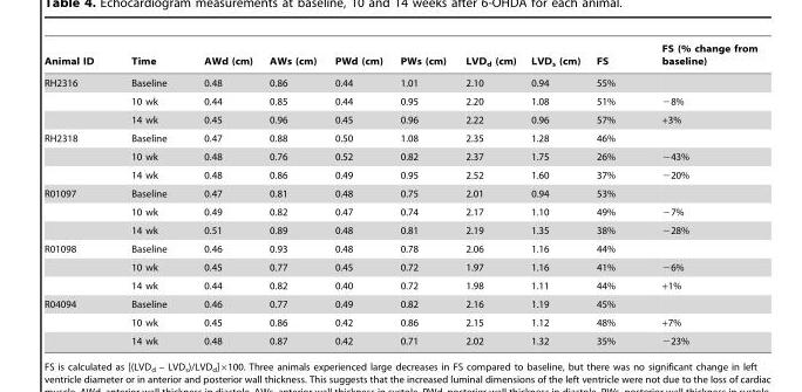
<table><thead><tr><td>Animal ID</td><td>Time</td><td>AWd (cm)</td><td>AWs (cm)</td><td>PWd (cm)</td><td>PWs (cm)</td><td>LVD<sub>d</sub> (cm)</td><td>LVD<sub>s</sub> (cm)</td><td>FS</td><td>FS (% change from baseline)</td></tr></thead><tbody><tr><td rowspan="3">RH2316</td><td>Baseline</td><td>0.48</td><td>0.86</td><td>0.44</td><td>1.01</td><td>2.10</td><td>0.94</td><td>55%</td><td></td></tr><tr><td>10 wk</td><td>0.44</td><td>0.85</td><td>0.44</td><td>0.95</td><td>2.20</td><td>1.08</td><td>51%</td><td>−8%</td></tr><tr><td>14 wk</td><td>0.45</td><td>0.96</td><td>0.45</td><td>0.96</td><td>2.22</td><td>0.96</td><td>57%</td><td>+3%</td></tr><tr><td rowspan="3">RH2318</td><td>Baseline</td><td>0.47</td><td>0.88</td><td>0.50</td><td>1.08</td><td>2.35</td><td>1.28</td><td>46%</td><td></td></tr><tr><td>10 wk</td><td>0.48</td><td>0.76</td><td>0.52</td><td>0.82</td><td>2.37</td><td>1.75</td><td>26%</td><td>−43%</td></tr><tr><td>14 wk</td><td>0.48</td><td>0.86</td><td>0.49</td><td>0.95</td><td>2.52</td><td>1.60</td><td>37%</td><td>−20%</td></tr><tr><td rowspan="3">R01097</td><td>Baseline</td><td>0.47</td><td>0.81</td><td>0.48</td><td>0.75</td><td>2.01</td><td>0.94</td><td>53%</td><td></td></tr><tr><td>10 wk</td><td>0.49</td><td>0.82</td><td>0.47</td><td>0.74</td><td>2.17</td><td>1.10</td><td>49%</td><td>−7%</td></tr><tr><td>14 wk</td><td>0.51</td><td>0.89</td><td>0.48</td><td>0.81</td><td>2.19</td><td>1.35</td><td>38%</td><td>−28%</td></tr><tr><td rowspan="3">R01098</td><td>Baseline</td><td>0.46</td><td>0.93</td><td>0.48</td><td>0.78</td><td>2.06</td><td>1.16</td><td>44%</td><td></td></tr><tr><td>10 wk</td><td>0.45</td><td>0.77</td><td>0.45</td><td>0.72</td><td>1.97</td><td>1.16</td><td>41%</td><td>−6%</td></tr><tr><td>14 wk</td><td>0.44</td><td>0.82</td><td>0.40</td><td>0.72</td><td>1.98</td><td>1.11</td><td>44%</td><td>+1%</td></tr><tr><td rowspan="3">R04094</td><td>Baseline</td><td>0.46</td><td>0.77</td><td>0.49</td><td>0.82</td><td>2.16</td><td>1.19</td><td>45%</td><td></td></tr><tr><td>10 wk</td><td>0.45</td><td>0.86</td><td>0.42</td><td>0.86</td><td>2.15</td><td>1.12</td><td>48%</td><td>+7%</td></tr><tr><td>14 wk</td><td>0.48</td><td>0.87</td><td>0.42</td><td>0.71</td><td>2.02</td><td>1.32</td><td>35%</td><td>−23%</td></tr></tbody></table>